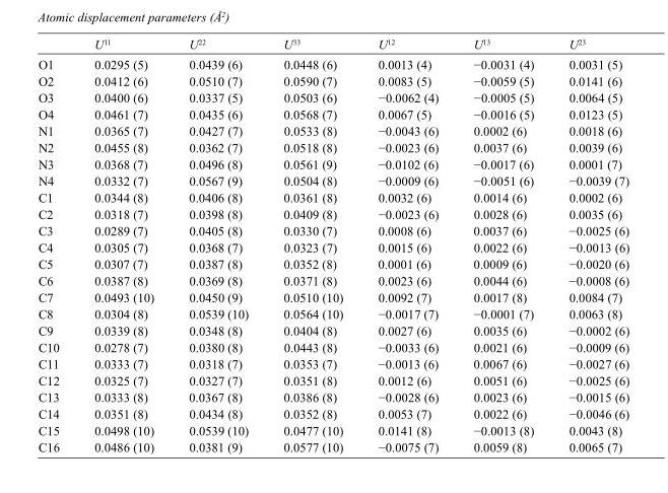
<table><thead><tr><td></td><td>U<sup>11</sup></td><td>U<sup>22</sup></td><td>U<sup>33</sup></td><td>U<sup>12</sup></td><td>U<sup>13</sup></td><td>U<sup>23</sup></td></tr></thead><tbody><tr><td>O1</td><td>0.0295 (5)</td><td>0.0439 (6)</td><td>0.0448 (6)</td><td>0.0013 (4)</td><td>−0.0031 (4)</td><td>0.0031 (5)</td></tr><tr><td>O2</td><td>0.0412 (6)</td><td>0.0510 (7)</td><td>0.0590 (7)</td><td>0.0083 (5)</td><td>−0.0059 (5)</td><td>0.0141 (6)</td></tr><tr><td>O3</td><td>0.0400 (6)</td><td>0.0337 (5)</td><td>0.0503 (6)</td><td>−0.0062 (4)</td><td>−0.0005 (5)</td><td>0.0064 (5)</td></tr><tr><td>O4</td><td>0.0461 (7)</td><td>0.0435 (6)</td><td>0.0568 (7)</td><td>0.0067 (5)</td><td>−0.0016 (5)</td><td>0.0123 (5)</td></tr><tr><td>N1</td><td>0.0365 (7)</td><td>0.0427 (7)</td><td>0.0533 (8)</td><td>−0.0043 (6)</td><td>0.0002 (6)</td><td>0.0018 (6)</td></tr><tr><td>N2</td><td>0.0455 (8)</td><td>0.0362 (7)</td><td>0.0518 (8)</td><td>−0.0023 (6)</td><td>0.0037 (6)</td><td>0.0039 (6)</td></tr><tr><td>N3</td><td>0.0368 (7)</td><td>0.0496 (8)</td><td>0.0561 (9)</td><td>−0.0102 (6)</td><td>−0.0017 (6)</td><td>0.0001 (7)</td></tr><tr><td>N4</td><td>0.0332 (7)</td><td>0.0567 (9)</td><td>0.0504 (8)</td><td>−0.0009 (6)</td><td>−0.0051 (6)</td><td>−0.0039 (7)</td></tr><tr><td>C1</td><td>0.0344 (8)</td><td>0.0406 (8)</td><td>0.0361 (8)</td><td>0.0032 (6)</td><td>0.0014 (6)</td><td>0.0002 (6)</td></tr><tr><td>C2</td><td>0.0318 (7)</td><td>0.0398 (8)</td><td>0.0409 (8)</td><td>−0.0023 (6)</td><td>0.0028 (6)</td><td>0.0035 (6)</td></tr><tr><td>C3</td><td>0.0289 (7)</td><td>0.0405 (8)</td><td>0.0330 (7)</td><td>0.0008 (6)</td><td>0.0037 (6)</td><td>−0.0025 (6)</td></tr><tr><td>C4</td><td>0.0305 (7)</td><td>0.0368 (7)</td><td>0.0323 (7)</td><td>0.0015 (6)</td><td>0.0022 (6)</td><td>−0.0013 (6)</td></tr><tr><td>C5</td><td>0.0307 (7)</td><td>0.0387 (8)</td><td>0.0352 (8)</td><td>0.0001 (6)</td><td>0.0009 (6)</td><td>−0.0020 (6)</td></tr><tr><td>C6</td><td>0.0387 (8)</td><td>0.0369 (8)</td><td>0.0371 (8)</td><td>0.0023 (6)</td><td>0.0044 (6)</td><td>−0.0008 (6)</td></tr><tr><td>C7</td><td>0.0493 (10)</td><td>0.0450 (9)</td><td>0.0510 (10)</td><td>0.0092 (7)</td><td>0.0017 (8)</td><td>0.0084 (7)</td></tr><tr><td>C8</td><td>0.0304 (8)</td><td>0.0539 (10)</td><td>0.0564 (10)</td><td>−0.0017 (7)</td><td>−0.0001 (7)</td><td>0.0063 (8)</td></tr><tr><td>C9</td><td>0.0339 (8)</td><td>0.0348 (8)</td><td>0.0404 (8)</td><td>0.0027 (6)</td><td>0.0035 (6)</td><td>−0.0002 (6)</td></tr><tr><td>C10</td><td>0.0278 (7)</td><td>0.0380 (8)</td><td>0.0443 (8)</td><td>−0.0033 (6)</td><td>0.0021 (6)</td><td>−0.0009 (6)</td></tr><tr><td>C11</td><td>0.0333 (7)</td><td>0.0318 (7)</td><td>0.0353 (7)</td><td>−0.0013 (6)</td><td>0.0067 (6)</td><td>−0.0027 (6)</td></tr><tr><td>C12</td><td>0.0325 (7)</td><td>0.0327 (7)</td><td>0.0351 (8)</td><td>0.0012 (6)</td><td>0.0051 (6)</td><td>−0.0025 (6)</td></tr><tr><td>C13</td><td>0.0333 (8)</td><td>0.0367 (8)</td><td>0.0386 (8)</td><td>−0.0028 (6)</td><td>0.0023 (6)</td><td>−0.0015 (6)</td></tr><tr><td>C14</td><td>0.0351 (8)</td><td>0.0434 (8)</td><td>0.0352 (8)</td><td>0.0053 (7)</td><td>0.0022 (6)</td><td>−0.0046 (6)</td></tr><tr><td>C15</td><td>0.0498 (10)</td><td>0.0539 (10)</td><td>0.0477 (10)</td><td>0.0141 (8)</td><td>−0.0013 (8)</td><td>0.0043 (8)</td></tr><tr><td>C16</td><td>0.0486 (10)</td><td>0.0381 (9)</td><td>0.0577 (10)</td><td>−0.0075 (7)</td><td>0.0059 (8)</td><td>0.0065 (7)</td></tr></tbody></table>